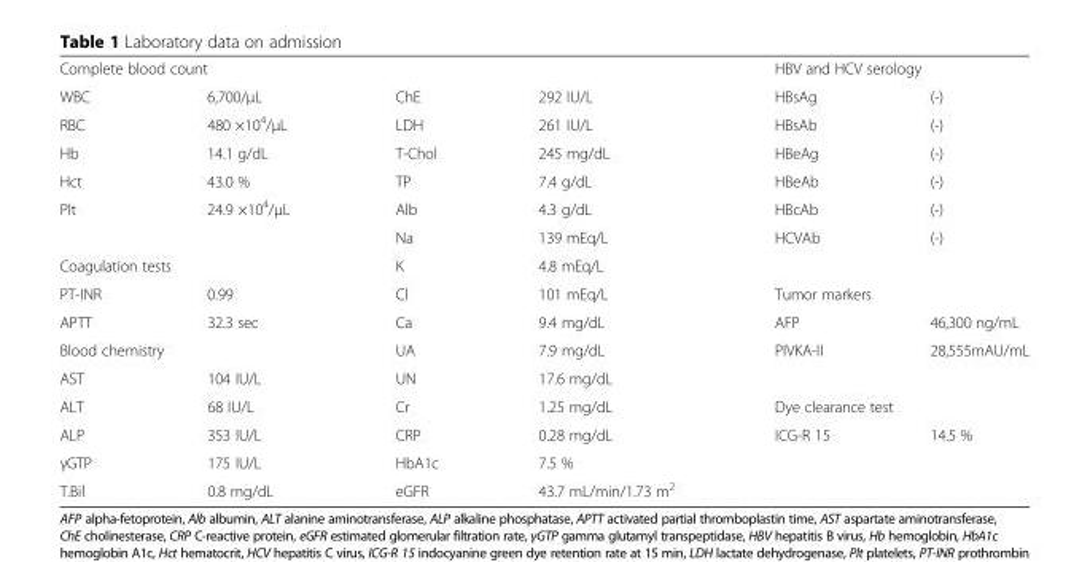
<table><tbody><tr><td colspan="2">Complete blood count</td><td></td><td></td><td colspan="2">HBV and HCV serology</td></tr><tr><td>WBC</td><td>6,700/μL</td><td>ChE</td><td>292 IU/L</td><td>HBsAg</td><td>(-)</td></tr><tr><td>RBC</td><td>480 ×10<sup>4</sup>/μL</td><td>LDH</td><td>261 IU/L</td><td>HBsAb</td><td>(-)</td></tr><tr><td>Hb</td><td>14.1 g/dL</td><td>T-Chol</td><td>245 mg/dL</td><td>HBeAg</td><td>(-)</td></tr><tr><td>Hct</td><td>43.0 %</td><td>TP</td><td>7.4 g/dL</td><td>HBeAb</td><td>(-)</td></tr><tr><td rowspan="2">Plt</td><td>24.9 ×10<sup>4</sup>/μL</td><td>Alb</td><td>4.3 g/dL</td><td>HBcAb</td><td>(-)</td></tr><tr><td></td><td>Na</td><td>139 mEq/L</td><td>HCVAb</td><td>(-)</td></tr><tr><td colspan="2">Coagulation tests</td><td>K</td><td>4.8 mEq/L</td><td></td><td></td></tr><tr><td>PT-INR</td><td>0.99</td><td>Cl</td><td>101 mEq/L</td><td colspan="2">Tumor markers</td></tr><tr><td>APTT</td><td>32.3 sec</td><td>Ca</td><td>9.4 mg/dL</td><td>AFP</td><td>46,300 ng/mL</td></tr><tr><td colspan="2">Blood chemistry</td><td>UA</td><td>7.9 mg/dL</td><td>PIVKA-II</td><td>28,555mAU/mL</td></tr><tr><td>AST</td><td>104 IU/L</td><td>UN</td><td>17.6 mg/dL</td><td></td><td></td></tr><tr><td>ALT</td><td>68 IU/L</td><td>Cr</td><td>1.25 mg/dL</td><td colspan="2">Dye clearance test</td></tr><tr><td>ALP</td><td>353 IU/L</td><td>CRP</td><td>0.28 mg/dL</td><td>ICG-R 15</td><td>14.5 %</td></tr><tr><td>γGTP</td><td>175 IU/L</td><td>HbA1c</td><td>7.5 %</td><td></td><td></td></tr><tr><td>T.Bil</td><td>0.8 mg/dL</td><td>eGFR</td><td>43.7 mL/min/1.73 m<sup>2</sup></td><td></td><td></td></tr></tbody></table>